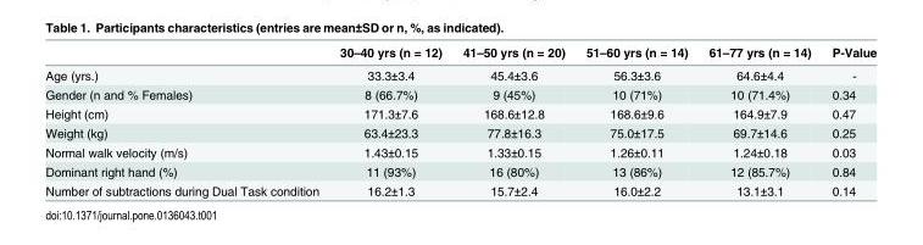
<table><thead><tr><td></td><td>30–40 yrs (n = 12)</td><td>41–50 yrs (n = 20)</td><td>51–60 yrs (n = 14)</td><td>61–77 yrs (n = 14)</td><td>P-Value</td></tr></thead><tbody><tr><td>Age (yrs.)</td><td>33.3±3.4</td><td>45.4±3.6</td><td>56.3±3.6</td><td>64.6±4.4</td><td>-</td></tr><tr><td>Gender (n and % Females)</td><td>8 (66.7%)</td><td>9 (45%)</td><td>10 (71%)</td><td>10 (71.4%)</td><td>0.34</td></tr><tr><td>Height (cm)</td><td>171.3±7.6</td><td>168.6±12.8</td><td>168.6±9.6</td><td>164.9±7.9</td><td>0.47</td></tr><tr><td>Weight (kg)</td><td>63.4±23.3</td><td>77.8±16.3</td><td>75.0±17.5</td><td>69.7±14.6</td><td>0.25</td></tr><tr><td>Normal walk velocity (m/s)</td><td>1.43±0.15</td><td>1.33±0.15</td><td>1.26±0.11</td><td>1.24±0.18</td><td>0.03</td></tr><tr><td>Dominant right hand (%)</td><td>11 (93%)</td><td>16 (80%)</td><td>13 (86%)</td><td>12 (85.7%)</td><td>0.84</td></tr><tr><td>Number of subtractions during Dual Task condition</td><td>16.2±1.3</td><td>15.7±2.4</td><td>16.0±2.2</td><td>13.1±3.1</td><td>0.14</td></tr></tbody></table>